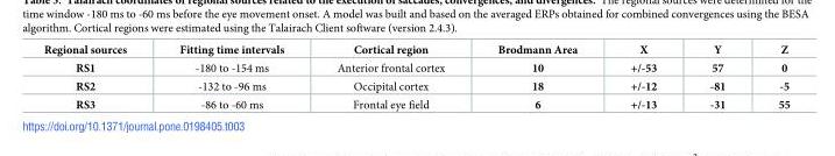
<table><thead><tr><td>Regional sources</td><td>Fitting time intervals</td><td>Cortical region</td><td>Brodmann Area</td><td>X</td><td>Y</td><td>Z</td></tr></thead><tbody><tr><td>RS1</td><td>-180 to -154 ms</td><td>Anterior frontal cortex</td><td>10</td><td>+/-53</td><td>57</td><td>0</td></tr><tr><td>RS2</td><td>-132 to -96 ms</td><td>Occipital cortex</td><td>18</td><td>+/-12</td><td>-81</td><td>-5</td></tr><tr><td>RS3</td><td>-86 to -60 ms</td><td>Frontal eye field</td><td>6</td><td>+/-13</td><td>-31</td><td>55</td></tr></tbody></table>